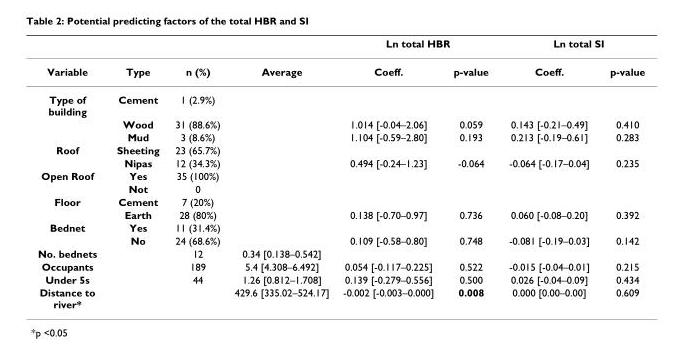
<table><thead><tr><td rowspan="2">Variable</td><td rowspan="2">Type</td><td rowspan="2">n (%)</td><td rowspan="2">Average</td><td colspan="2">Ln total HBR</td><td colspan="2">Ln total SI</td></tr><tr><td>Coeff.</td><td>p-value</td><td>Coeff.</td><td>p-value</td></tr></thead><tbody><tr><td rowspan="3">Type of building</td><td>Cement</td><td>1 (2.9%)</td><td></td><td></td><td></td><td></td><td></td></tr><tr><td>Wood</td><td>31 (88.6%)</td><td></td><td>1.014 [-0.04–2.06]</td><td>0.059</td><td>0.143 [-0.21–0.49]</td><td>0.410</td></tr><tr><td>Mud</td><td>3 (8.6%)</td><td></td><td>1.104 [-0.59–2.80]</td><td>0.193</td><td>0.213 [-0.19–0.61]</td><td>0.283</td></tr><tr><td rowspan="2">Roof</td><td>Sheeting</td><td>23 (65.7%)</td><td></td><td></td><td></td><td></td><td></td></tr><tr><td>Nipas</td><td>12 (34.3%)</td><td></td><td>0.494 [-0.24–1.23]</td><td>-0.064</td><td>-0.064 [-0.17–0.04]</td><td>0.235</td></tr><tr><td rowspan="2">Open Roof</td><td>Yes</td><td>35 (100%)</td><td></td><td></td><td></td><td></td><td></td></tr><tr><td>Not</td><td>0</td><td></td><td></td><td></td><td></td><td></td></tr><tr><td rowspan="2">Floor</td><td>Cement</td><td>7 (20%)</td><td></td><td></td><td></td><td></td><td></td></tr><tr><td>Earth</td><td>28 (80%)</td><td></td><td>0.138 [-0.70–0.97]</td><td>0.736</td><td>0.060 [-0.08–0.20]</td><td>0.392</td></tr><tr><td rowspan="2">Bednet</td><td>Yes</td><td>11 (31.4%)</td><td></td><td></td><td></td><td></td><td></td></tr><tr><td>No</td><td>24 (68.6%)</td><td></td><td>0.109 [-0.58–0.80]</td><td>0.748</td><td>-0.081 [-0.19–0.03]</td><td>0.142</td></tr><tr><td>No. bednets</td><td></td><td>12</td><td>0.34 [0.138–0.542]</td><td></td><td></td><td></td><td></td></tr><tr><td>Occupants</td><td></td><td>189</td><td>5.4 [4.308–6.492]</td><td>0.054 [-0.117–0.225]</td><td>0.522</td><td>-0.015 [-0.04–0.01]</td><td>0.215</td></tr><tr><td>Under 5s</td><td></td><td>44</td><td>1.26 [0.812–1.708]</td><td>0.139 [-0.279–0.556]</td><td>0.500</td><td>0.026 [-0.04–0.09]</td><td>0.434</td></tr><tr><td>Distance to river*</td><td></td><td></td><td>429.6 [335.02–524.17]</td><td>-0.002 [-0.003–0.000]</td><td>0.008</td><td>0.000 [0.00–0.00]</td><td>0.609</td></tr></tbody></table>